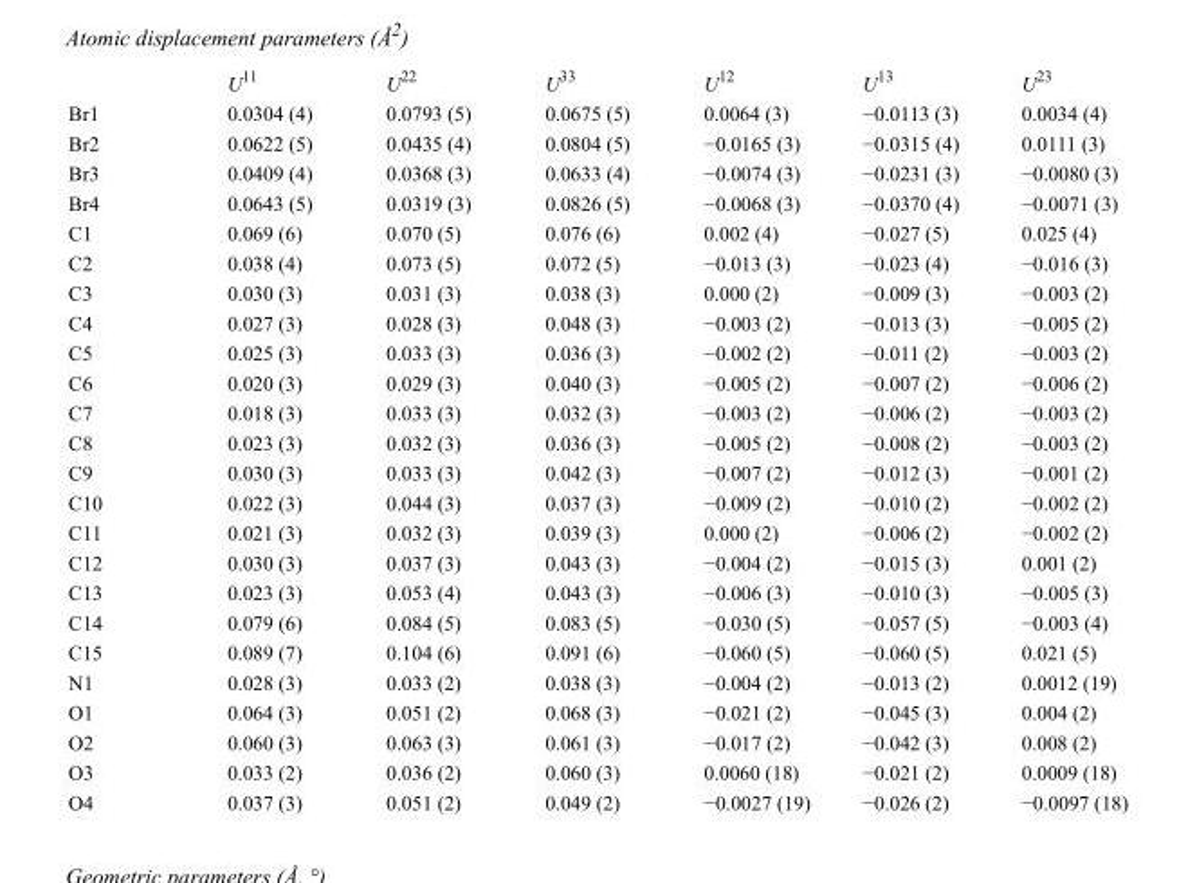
<table><thead><tr><td></td><td>U<sup>11</sup></td><td>U<sup>22</sup></td><td>U<sup>33</sup></td><td>U<sup>12</sup></td><td>U<sup>13</sup></td><td>U<sup>23</sup></td></tr></thead><tbody><tr><td>Br1</td><td>0.0304 (4)</td><td>0.0793 (5)</td><td>0.0675 (5)</td><td>0.0064 (3)</td><td>−0.0113 (3)</td><td>0.0034 (4)</td></tr><tr><td>Br2</td><td>0.0622 (5)</td><td>0.0435 (4)</td><td>0.0804 (5)</td><td>−0.0165 (3)</td><td>−0.0315 (4)</td><td>0.0111 (3)</td></tr><tr><td>Br3</td><td>0.0409 (4)</td><td>0.0368 (3)</td><td>0.0633 (4)</td><td>−0.0074 (3)</td><td>−0.0231 (3)</td><td>−0.0080 (3)</td></tr><tr><td>Br4</td><td>0.0643 (5)</td><td>0.0319 (3)</td><td>0.0826 (5)</td><td>−0.0068 (3)</td><td>−0.0370 (4)</td><td>−0.0071 (3)</td></tr><tr><td>C1</td><td>0.069 (6)</td><td>0.070 (5)</td><td>0.076 (6)</td><td>0.002 (4)</td><td>−0.027 (5)</td><td>0.025 (4)</td></tr><tr><td>C2</td><td>0.038 (4)</td><td>0.073 (5)</td><td>0.072 (5)</td><td>−0.013 (3)</td><td>−0.023 (4)</td><td>−0.016 (3)</td></tr><tr><td>C3</td><td>0.030 (3)</td><td>0.031 (3)</td><td>0.038 (3)</td><td>0.000 (2)</td><td>−0.009 (3)</td><td>−0.003 (2)</td></tr><tr><td>C4</td><td>0.027 (3)</td><td>0.028 (3)</td><td>0.048 (3)</td><td>−0.003 (2)</td><td>−0.013 (3)</td><td>−0.005 (2)</td></tr><tr><td>C5</td><td>0.025 (3)</td><td>0.033 (3)</td><td>0.036 (3)</td><td>−0.002 (2)</td><td>−0.011 (2)</td><td>−0.003 (2)</td></tr><tr><td>C6</td><td>0.020 (3)</td><td>0.029 (3)</td><td>0.040 (3)</td><td>−0.005 (2)</td><td>−0.007 (2)</td><td>−0.006 (2)</td></tr><tr><td>C7</td><td>0.018 (3)</td><td>0.033 (3)</td><td>0.032 (3)</td><td>−0.003 (2)</td><td>−0.006 (2)</td><td>−0.003 (2)</td></tr><tr><td>C8</td><td>0.023 (3)</td><td>0.032 (3)</td><td>0.036 (3)</td><td>−0.005 (2)</td><td>−0.008 (2)</td><td>−0.003 (2)</td></tr><tr><td>C9</td><td>0.030 (3)</td><td>0.033 (3)</td><td>0.042 (3)</td><td>−0.007 (2)</td><td>−0.012 (3)</td><td>−0.001 (2)</td></tr><tr><td>C10</td><td>0.022 (3)</td><td>0.044 (3)</td><td>0.037 (3)</td><td>−0.009 (2)</td><td>−0.010 (2)</td><td>−0.002 (2)</td></tr><tr><td>C11</td><td>0.021 (3)</td><td>0.032 (3)</td><td>0.039 (3)</td><td>0.000 (2)</td><td>−0.006 (2)</td><td>−0.002 (2)</td></tr><tr><td>C12</td><td>0.030 (3)</td><td>0.037 (3)</td><td>0.043 (3)</td><td>−0.004 (2)</td><td>−0.015 (3)</td><td>0.001 (2)</td></tr><tr><td>C13</td><td>0.023 (3)</td><td>0.053 (4)</td><td>0.043 (3)</td><td>−0.006 (3)</td><td>−0.010 (3)</td><td>−0.005 (3)</td></tr><tr><td>C14</td><td>0.079 (6)</td><td>0.084 (5)</td><td>0.083 (5)</td><td>−0.030 (5)</td><td>−0.057 (5)</td><td>−0.003 (4)</td></tr><tr><td>C15</td><td>0.089 (7)</td><td>0.104 (6)</td><td>0.091 (6)</td><td>−0.060 (5)</td><td>−0.060 (5)</td><td>0.021 (5)</td></tr><tr><td>N1</td><td>0.028 (3)</td><td>0.033 (2)</td><td>0.038 (3)</td><td>−0.004 (2)</td><td>−0.013 (2)</td><td>0.0012 (19)</td></tr><tr><td>O1</td><td>0.064 (3)</td><td>0.051 (2)</td><td>0.068 (3)</td><td>−0.021 (2)</td><td>−0.045 (3)</td><td>0.004 (2)</td></tr><tr><td>O2</td><td>0.060 (3)</td><td>0.063 (3)</td><td>0.061 (3)</td><td>−0.017 (2)</td><td>−0.042 (3)</td><td>0.008 (2)</td></tr><tr><td>O3</td><td>0.033 (2)</td><td>0.036 (2)</td><td>0.060 (3)</td><td>0.0060 (18)</td><td>−0.021 (2)</td><td>0.0009 (18)</td></tr><tr><td>O4</td><td>0.037 (3)</td><td>0.051 (2)</td><td>0.049 (2)</td><td>−0.0027 (19)</td><td>−0.026 (2)</td><td>−0.0097 (18)</td></tr></tbody></table>